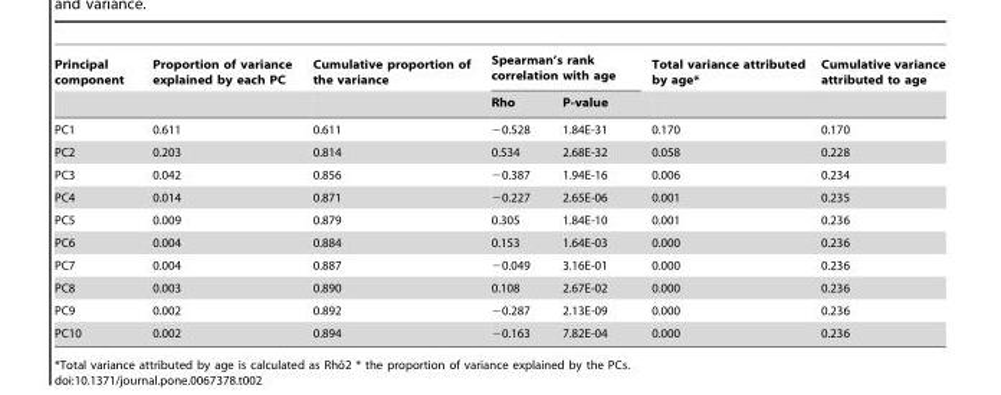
<table><thead><tr><td rowspan="2">Principal component</td><td rowspan="2">Proportion of variance explained by each PC</td><td rowspan="2">Cumulative proportion of the variance</td><td colspan="2">Spearman’s rank correlation with age</td><td rowspan="2">Total variance attributed by age*</td><td rowspan="2">Cumulative variance attributed to age</td></tr><tr><td>Rho</td><td>P-value</td></tr></thead><tbody><tr><td>PC1</td><td>0.611</td><td>0.611</td><td>−0.528</td><td>1.84E-31</td><td>0.170</td><td>0.170</td></tr><tr><td>PC2</td><td>0.203</td><td>0.814</td><td>0.534</td><td>2.68E-32</td><td>0.058</td><td>0.228</td></tr><tr><td>PC3</td><td>0.042</td><td>0.856</td><td>−0.387</td><td>1.94E-16</td><td>0.006</td><td>0.234</td></tr><tr><td>PC4</td><td>0.014</td><td>0.871</td><td>−0.227</td><td>2.65E-06</td><td>0.001</td><td>0.235</td></tr><tr><td>PC5</td><td>0.009</td><td>0.879</td><td>0.305</td><td>1.84E-10</td><td>0.001</td><td>0.236</td></tr><tr><td>PC6</td><td>0.004</td><td>0.884</td><td>0.153</td><td>1.64E-03</td><td>0.000</td><td>0.236</td></tr><tr><td>PC7</td><td>0.004</td><td>0.887</td><td>−0.049</td><td>3.16E-01</td><td>0.000</td><td>0.236</td></tr><tr><td>PC8</td><td>0.003</td><td>0.890</td><td>0.108</td><td>2.67E-02</td><td>0.000</td><td>0.236</td></tr><tr><td>PC9</td><td>0.002</td><td>0.892</td><td>−0.287</td><td>2.13E-09</td><td>0.000</td><td>0.236</td></tr><tr><td>PC10</td><td>0.002</td><td>0.894</td><td>−0.163</td><td>7.82E-04</td><td>0.000</td><td>0.236</td></tr></tbody></table>